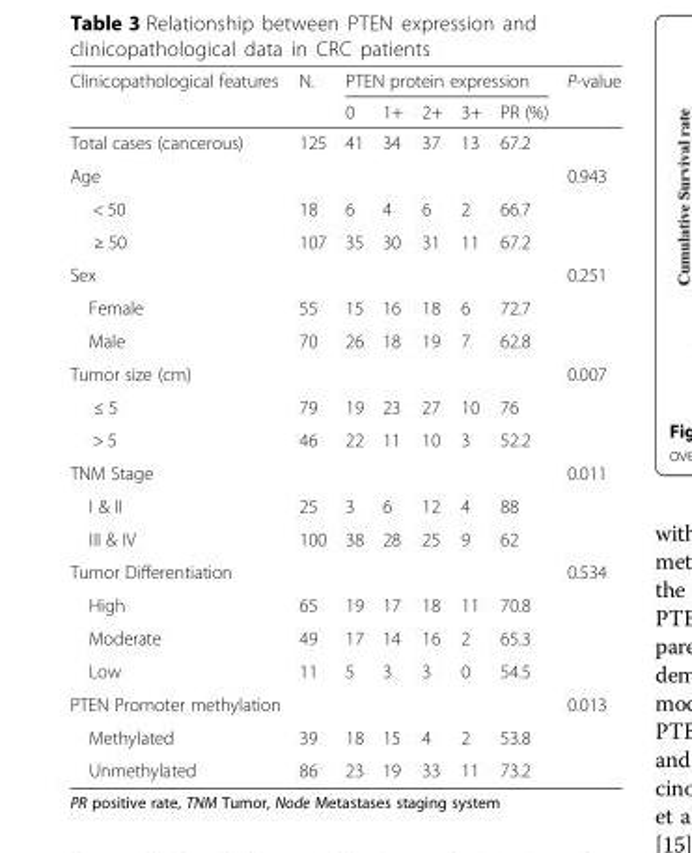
<table><thead><tr><td rowspan="2">Clinicopathological features</td><td rowspan="2">N.</td><td colspan="5">PTEN protein expression</td><td rowspan="2">P-value</td></tr><tr><td>0</td><td>1+</td><td>2+</td><td>3+</td><td>PR (%)</td></tr></thead><tbody><tr><td>Total cases (cancerous)</td><td>125</td><td>41</td><td>34</td><td>37</td><td>13</td><td>67.2</td><td></td></tr><tr><td>Age</td><td></td><td></td><td></td><td></td><td></td><td></td><td>0.943</td></tr><tr><td>&lt; 50</td><td>18</td><td>6</td><td>4</td><td>6</td><td>2</td><td>66.7</td><td></td></tr><tr><td>≥ 50</td><td>107</td><td>35</td><td>30</td><td>31</td><td>11</td><td>67.2</td><td></td></tr><tr><td>Sex</td><td></td><td></td><td></td><td></td><td></td><td></td><td>0.251</td></tr><tr><td>Female</td><td>55</td><td>15</td><td>16</td><td>18</td><td>6</td><td>72.7</td><td></td></tr><tr><td>Male</td><td>70</td><td>26</td><td>18</td><td>19</td><td>7</td><td>62.8</td><td></td></tr><tr><td>Tumor size (cm)</td><td></td><td></td><td></td><td></td><td></td><td></td><td>0.007</td></tr><tr><td>≤ 5</td><td>79</td><td>19</td><td>23</td><td>27</td><td>10</td><td>76</td><td></td></tr><tr><td>&gt; 5</td><td>46</td><td>22</td><td>11</td><td>10</td><td>3</td><td>52.2</td><td></td></tr><tr><td>TNM Stage</td><td></td><td></td><td></td><td></td><td></td><td></td><td>0.011</td></tr><tr><td>I &amp; II</td><td>25</td><td>3</td><td>6</td><td>12</td><td>4</td><td>88</td><td></td></tr><tr><td>III &amp; IV</td><td>100</td><td>38</td><td>28</td><td>25</td><td>9</td><td>62</td><td></td></tr><tr><td>Tumor Differentiation</td><td></td><td></td><td></td><td></td><td></td><td></td><td>0.534</td></tr><tr><td>High</td><td>65</td><td>19</td><td>17</td><td>18</td><td>11</td><td>70.8</td><td></td></tr><tr><td>Moderate</td><td>49</td><td>17</td><td>14</td><td>16</td><td>2</td><td>65.3</td><td></td></tr><tr><td>Low</td><td>11</td><td>5</td><td>3</td><td>3</td><td>0</td><td>54.5</td><td></td></tr><tr><td>PTEN Promoter methylation</td><td></td><td></td><td></td><td></td><td></td><td></td><td>0.013</td></tr><tr><td>Methylated</td><td>39</td><td>18</td><td>15</td><td>4</td><td>2</td><td>53.8</td><td></td></tr><tr><td>Unmethylated</td><td>86</td><td>23</td><td>19</td><td>33</td><td>11</td><td>73.2</td><td></td></tr></tbody></table>